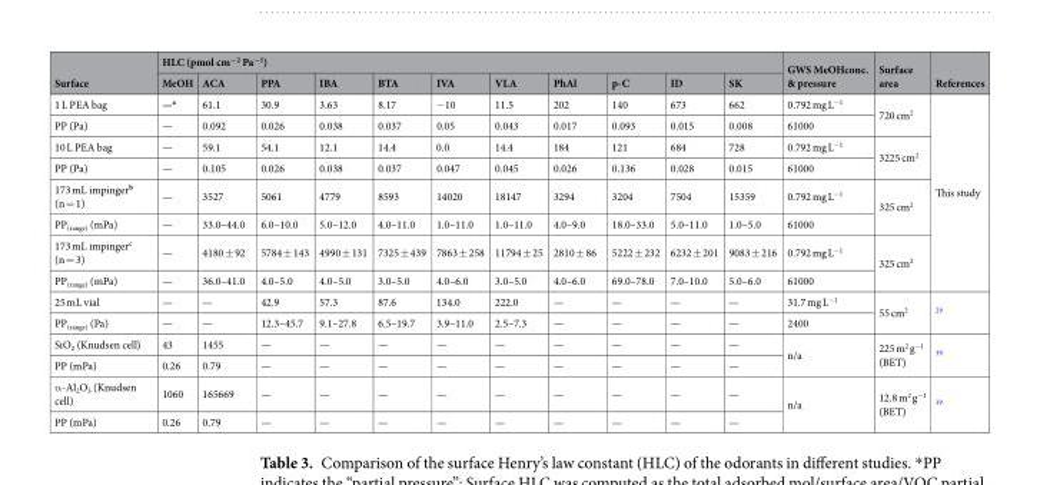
<table><thead><tr><td rowspan="2">Surface</td><td colspan="11">HLC (pmol cm<sup>−2</sup> Pa<sup>−1</sup>)</td><td rowspan="2">GWS MeOHconc. &amp; pressure</td><td rowspan="2">Surface area</td><td rowspan="2">References</td></tr><tr><td>MeOH</td><td>ACA</td><td>PPA</td><td>IBA</td><td>BTA</td><td>IVA</td><td>VLA</td><td>PhAl</td><td>p-C</td><td>ID</td><td>SK</td></tr></thead><tbody><tr><td>1 L PEA bag</td><td>—<sup>a</sup></td><td>61.1</td><td>30.9</td><td>3.63</td><td>8.17</td><td>−10</td><td>11.5</td><td>202</td><td>140</td><td>673</td><td>662</td><td>0.792 mg L<sup>−1</sup></td><td rowspan="2">720 cm<sup>2</sup></td><td rowspan="8">This study</td></tr><tr><td>PP (Pa)</td><td>—</td><td>0.092</td><td>0.026</td><td>0.038</td><td>0.037</td><td>0.05</td><td>0.043</td><td>0.017</td><td>0.093</td><td>0.015</td><td>0.008</td><td>61000</td></tr><tr><td>10 L PEA bag</td><td>—</td><td>59.1</td><td>54.1</td><td>12.1</td><td>14.4</td><td>0.0</td><td>14.4</td><td>184</td><td>121</td><td>684</td><td>728</td><td>0.792 mg L<sup>−1</sup></td><td rowspan="2">3225 cm<sup>2</sup></td></tr><tr><td>PP (Pa)</td><td>—</td><td>0.105</td><td>0.026</td><td>0.038</td><td>0.037</td><td>0.047</td><td>0.045</td><td>0.026</td><td>0.136</td><td>0.028</td><td>0.015</td><td>61000</td></tr><tr><td>173 mL impinger<sup>b</sup> (n = 1)</td><td>—</td><td>3527</td><td>5061</td><td>4779</td><td>8593</td><td>14020</td><td>18147</td><td>3294</td><td>3204</td><td>7504</td><td>15359</td><td>0.792 mg L<sup>−1</sup></td><td rowspan="2">325 cm<sup>2</sup></td></tr><tr><td>PP<sub>(range)</sub> (mPa)</td><td>—</td><td>33.0–44.0</td><td>6.0–10.0</td><td>5.0–12.0</td><td>4.0–11.0</td><td>1.0–11.0</td><td>1.0–11.0</td><td>4.0–9.0</td><td>18.0–33.0</td><td>5.0–11.0</td><td>1.0–5.0</td><td>61000</td></tr><tr><td>173 mL impinger<sup>c</sup> (n = 3)</td><td>—</td><td>4180 ± 92</td><td>5784 ± 143</td><td>4990 ± 131</td><td>7325 ± 439</td><td>7863 ± 258</td><td>11794 ± 25</td><td>2810 ± 86</td><td>5222 ± 232</td><td>6232 ± 201</td><td>9083 ± 216</td><td>0.792 mg L<sup>−1</sup></td><td rowspan="2">325 cm<sup>2</sup></td></tr><tr><td>PP<sub>(range)</sub> (mPa)</td><td>—</td><td>36.0–41.0</td><td>4.0–5.0</td><td>4.0–5.0</td><td>3.0–5.0</td><td>4.0–6.0</td><td>3.0–5.0</td><td>4.0–6.0</td><td>69.0–78.0</td><td>7.0–10.0</td><td>5.0–6.0</td><td>61000</td></tr><tr><td>25 mL vial</td><td>—</td><td>—</td><td>42.9</td><td>57.3</td><td>87.6</td><td>134.0</td><td>222.0</td><td>—</td><td>—</td><td>—</td><td>—</td><td>31.7 mg L<sup>−1</sup></td><td rowspan="2">55 cm<sup>2</sup></td><td rowspan="2"><sup>29</sup></td></tr><tr><td>PP<sub>(range)</sub> (Pa)</td><td>—</td><td>—</td><td>12.3–45.7</td><td>9.1–27.8</td><td>6.5–19.7</td><td>3.9–11.0</td><td>2.5–7.3</td><td>—</td><td>—</td><td>—</td><td>—</td><td>2400</td></tr><tr><td>SiO<sub>2</sub> (Knudsen cell)</td><td>43</td><td>1455</td><td>—</td><td>—</td><td>—</td><td>—</td><td>—</td><td>—</td><td>—</td><td>—</td><td>—</td><td rowspan="2">n/a</td><td rowspan="2">225 m<sup>2</sup> g<sup>−1</sup> (BET)</td><td rowspan="2"><sup>39</sup></td></tr><tr><td>PP (mPa)</td><td>0.26</td><td>0.79</td><td>—</td><td>—</td><td>—</td><td>—</td><td>—</td><td>—</td><td>—</td><td>—</td><td>—</td></tr><tr><td>α-Al<sub>2</sub>O<sub>3</sub> (Knudsen cell)</td><td>1060</td><td>165669</td><td>—</td><td>—</td><td>—</td><td>—</td><td>—</td><td>—</td><td>—</td><td>—</td><td>—</td><td rowspan="2">n/a</td><td rowspan="2">12.8 m<sup>2</sup> g<sup>−1</sup> (BET)</td><td rowspan="2"><sup>39</sup></td></tr><tr><td>PP (mPa)</td><td>0.26</td><td>0.79</td><td>—</td><td>—</td><td>—</td><td>—</td><td>—</td><td>—</td><td>—</td><td>—</td><td>—</td></tr></tbody></table>